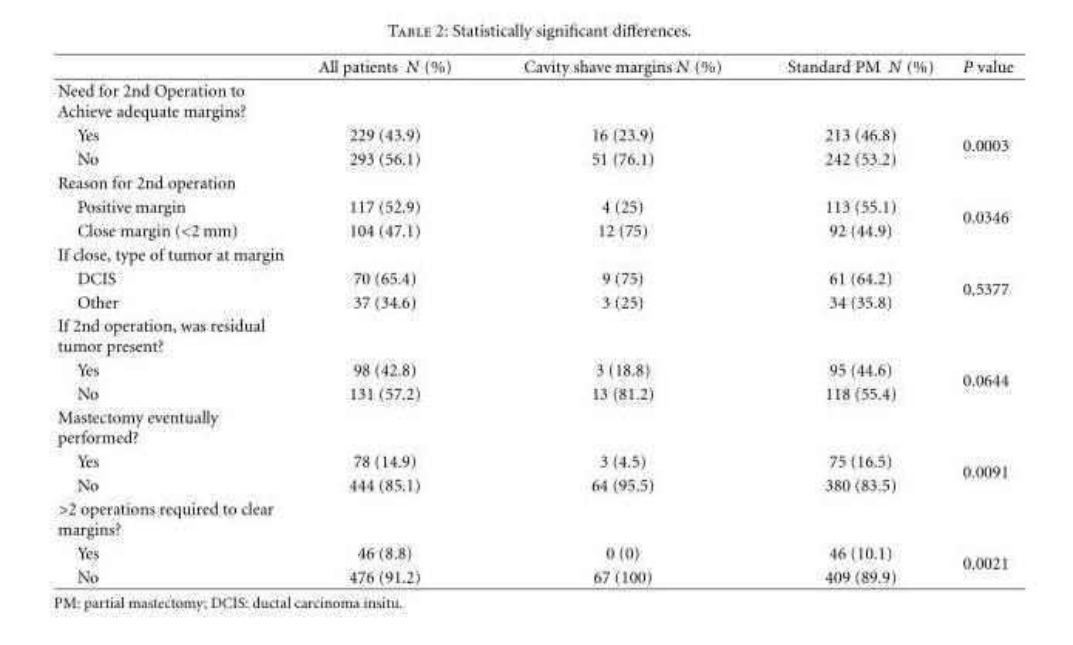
<table><thead><tr><td></td><td>All patients N (%)</td><td>Cavity shave margins N (%)</td><td>Standard PM N (%)</td><td>P value</td></tr></thead><tbody><tr><td colspan="5">Need for 2nd Operation to Achieve adequate margins?</td></tr><tr><td>Yes</td><td>229 (43.9)</td><td>16 (23.9)</td><td>213 (46.8)</td><td rowspan="2">0.0003</td></tr><tr><td>No</td><td>293 (56.1)</td><td>51 (76.1)</td><td>242 (53.2)</td></tr><tr><td colspan="5">Reason for 2nd operation</td></tr><tr><td>Positive margin</td><td>117 (52.9)</td><td>4 (25)</td><td>113 (55.1)</td><td rowspan="2">0.0346</td></tr><tr><td>Close margin (&lt;2 mm)</td><td>104 (47.1)</td><td>12 (75)</td><td>92 (44.9)</td></tr><tr><td colspan="5">If close, type of tumor at margin</td></tr><tr><td>DCIS</td><td>70 (65.4)</td><td>9 (75)</td><td>61 (64.2)</td><td rowspan="2">0.5377</td></tr><tr><td>Other</td><td>37 (34.6)</td><td>3 (25)</td><td>34 (35.8)</td></tr><tr><td colspan="5">If 2nd operation, was residual tumor present?</td></tr><tr><td>Yes</td><td>98 (42.8)</td><td>3 (18.8)</td><td>95 (44.6)</td><td rowspan="2">0.0644</td></tr><tr><td>No</td><td>131 (57.2)</td><td>13 (81.2)</td><td>118 (55.4)</td></tr><tr><td colspan="5">Mastectomy eventually performed?</td></tr><tr><td>Yes</td><td>78 (14.9)</td><td>3 (4.5)</td><td>75 (16.5)</td><td rowspan="2">0.0091</td></tr><tr><td>No</td><td>444 (85.1)</td><td>64 (95.5)</td><td>380 (83.5)</td></tr><tr><td colspan="5">&gt;2 operations required to clear margins?</td></tr><tr><td>Yes</td><td>46 (8.8)</td><td>0 (0)</td><td>46 (10.1)</td><td rowspan="2">0.0021</td></tr><tr><td>No</td><td>476 (91.2)</td><td>67 (100)</td><td>409 (89.9)</td></tr></tbody></table>